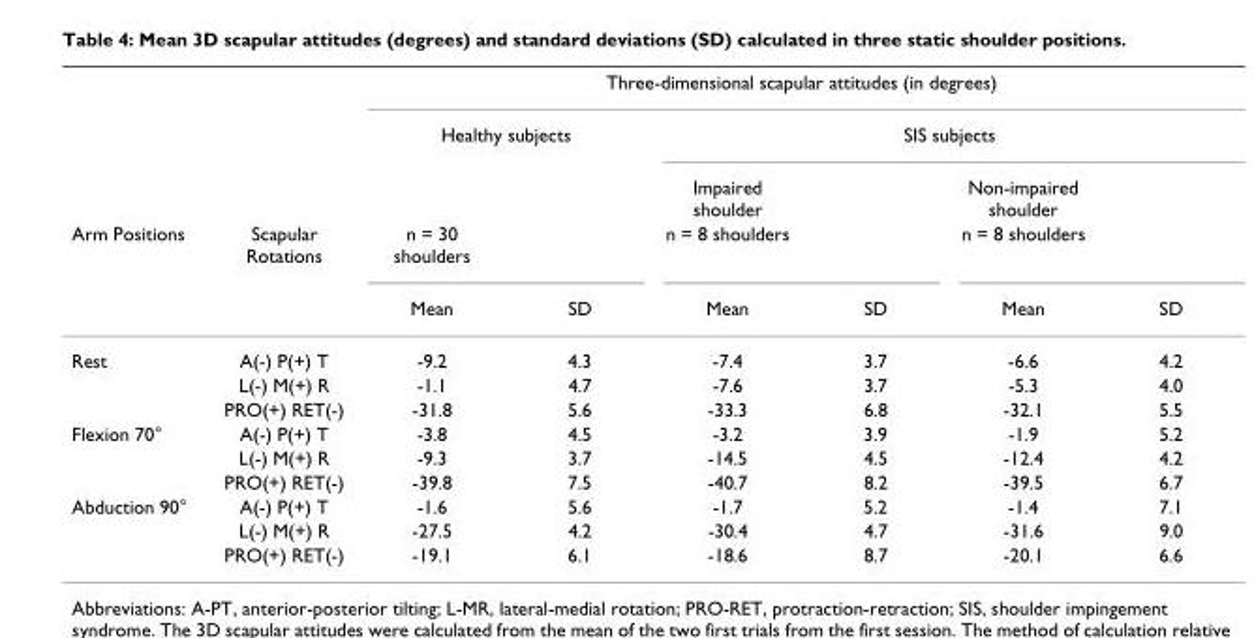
<table><thead><tr><td rowspan="5">Arm Positions</td><td rowspan="5">Scapular Rotations</td><td colspan="6">Three-dimensional scapular attitudes (in degrees)</td></tr><tr><td colspan="2">Healthy subjects</td><td colspan="4">SIS subjects</td></tr><tr><td rowspan="3">n = 30 shoulders Mean</td><td rowspan="3">SD</td><td rowspan="3">Impaired shoulder n = 8 shoulders Mean</td><td rowspan="3">SD</td><td rowspan="3">Non-impaired shoulder n = 8 shoulders Mean</td><td rowspan="3">SD</td></tr><tr></tr><tr></tr></thead><tbody><tr><td rowspan="3">Rest</td><td>A(-) P(+) T</td><td>-9.2</td><td>4.3</td><td>-7.4</td><td>3.7</td><td>-6.6</td><td>4.2</td></tr><tr><td>L(-) M(+) R</td><td>-1.1</td><td>4.7</td><td>-7.6</td><td>3.7</td><td>-5.3</td><td>4.0</td></tr><tr><td>PRO(+) RET(-)</td><td>-31.8</td><td>5.6</td><td>-33.3</td><td>6.8</td><td>-32.1</td><td>5.5</td></tr><tr><td rowspan="3">Flexion 70°</td><td>A(-) P(+) T</td><td>-3.8</td><td>4.5</td><td>-3.2</td><td>3.9</td><td>-1.9</td><td>5.2</td></tr><tr><td>L(-) M(+) R</td><td>-9.3</td><td>3.7</td><td>-14.5</td><td>4.5</td><td>-12.4</td><td>4.2</td></tr><tr><td>PRO(+) RET(-)</td><td>-39.8</td><td>7.5</td><td>-40.7</td><td>8.2</td><td>-39.5</td><td>6.7</td></tr><tr><td rowspan="3">Abduction 90°</td><td>A(-) P(+) T</td><td>-1.6</td><td>5.6</td><td>-1.7</td><td>5.2</td><td>-1.4</td><td>7.1</td></tr><tr><td>L(-) M(+) R</td><td>-27.5</td><td>4.2</td><td>-30.4</td><td>4.7</td><td>-31.6</td><td>9.0</td></tr><tr><td>PRO(+) RET(-)</td><td>-19.1</td><td>6.1</td><td>-18.6</td><td>8.7</td><td>-20.1</td><td>6.6</td></tr></tbody></table>